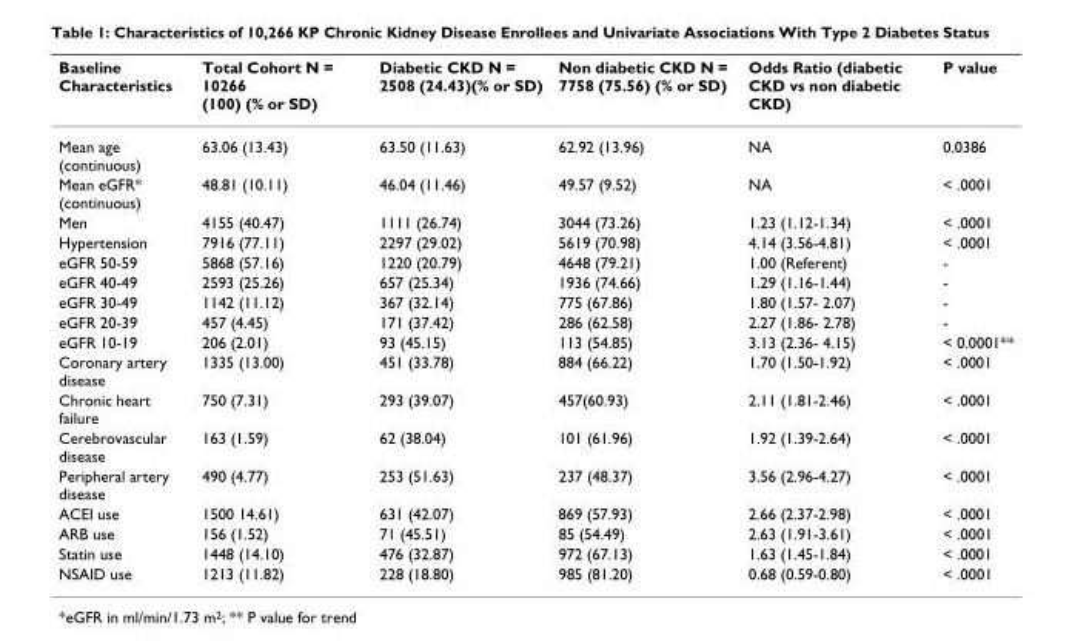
<table><thead><tr><td>Baseline Characteristics</td><td>Total Cohort N = 10266 (100) (% or SD)</td><td>Diabetic CKD N = 2508 (24.43)(% or SD)</td><td>Non diabetic CKD N = 7758 (75.56) (% or SD)</td><td>Odds Ratio (diabetic CKD vs non diabetic CKD)</td><td>P value</td></tr></thead><tbody><tr><td>Mean age (continuous)</td><td>63.06 (13.43)</td><td>63.50 (11.63)</td><td>62.92 (13.96)</td><td>NA</td><td>0.0386</td></tr><tr><td>Mean eGFR* (continuous)</td><td>48.81 (10.11)</td><td>46.04 (11.46)</td><td>49.57 (9.52)</td><td>NA</td><td>&lt; .0001</td></tr><tr><td>Men</td><td>4155 (40.47)</td><td>1111 (26.74)</td><td>3044 (73.26)</td><td>1.23 (1.12-1.34)</td><td>&lt; .0001</td></tr><tr><td>Hypertension</td><td>7916 (77.11)</td><td>2297 (29.02)</td><td>5619 (70.98)</td><td>4.14 (3.56-4.81)</td><td>&lt; .0001</td></tr><tr><td>eGFR 50-59</td><td>5868 (57.16)</td><td>1220 (20.79)</td><td>4648 (79.21)</td><td>1.00 (Referent)</td><td>-</td></tr><tr><td>eGFR 40-49</td><td>2593 (25.26)</td><td>657 (25.34)</td><td>1936 (74.66)</td><td>1.29 (1.16-1.44)</td><td>-</td></tr><tr><td>eGFR 30-49</td><td>1142 (11.12)</td><td>367 (32.14)</td><td>775 (67.86)</td><td>1.80 (1.57- 2.07)</td><td>-</td></tr><tr><td>eGFR 20-39</td><td>457 (4.45)</td><td>171 (37.42)</td><td>286 (62.58)</td><td>2.27 (1.86- 2.78)</td><td>-</td></tr><tr><td>eGFR 10-19</td><td>206 (2.01)</td><td>93 (45.15)</td><td>113 (54.85)</td><td>3.13 (2.36- 4.15)</td><td>&lt; 0.0001**</td></tr><tr><td>Coronary artery disease</td><td>1335 (13.00)</td><td>451 (33.78)</td><td>884 (66.22)</td><td>1.70 (1.50-1.92)</td><td>&lt; .0001</td></tr><tr><td>Chronic heart failure</td><td>750 (7.31)</td><td>293 (39.07)</td><td>457(60.93)</td><td>2.11 (1.81-2.46)</td><td>&lt; .0001</td></tr><tr><td>Cerebrovascular disease</td><td>163 (1.59)</td><td>62 (38.04)</td><td>101 (61.96)</td><td>1.92 (1.39-2.64)</td><td>&lt; .0001</td></tr><tr><td>Peripheral artery disease</td><td>490 (4.77)</td><td>253 (51.63)</td><td>237 (48.37)</td><td>3.56 (2.96-4.27)</td><td>&lt; .0001</td></tr><tr><td>ACEI use</td><td>1500 14.61)</td><td>631 (42.07)</td><td>869 (57.93)</td><td>2.66 (2.37-2.98)</td><td>&lt; .0001</td></tr><tr><td>ARB use</td><td>156 (1.52)</td><td>71 (45.51)</td><td>85 (54.49)</td><td>2.63 (1.91-3.61)</td><td>&lt; .0001</td></tr><tr><td>Statin use</td><td>1448 (14.10)</td><td>476 (32.87)</td><td>972 (67.13)</td><td>1.63 (1.45-1.84)</td><td>&lt; .0001</td></tr><tr><td>NSAID use</td><td>1213 (11.82)</td><td>228 (18.80)</td><td>985 (81.20)</td><td>0.68 (0.59-0.80)</td><td>&lt; .0001</td></tr></tbody></table>